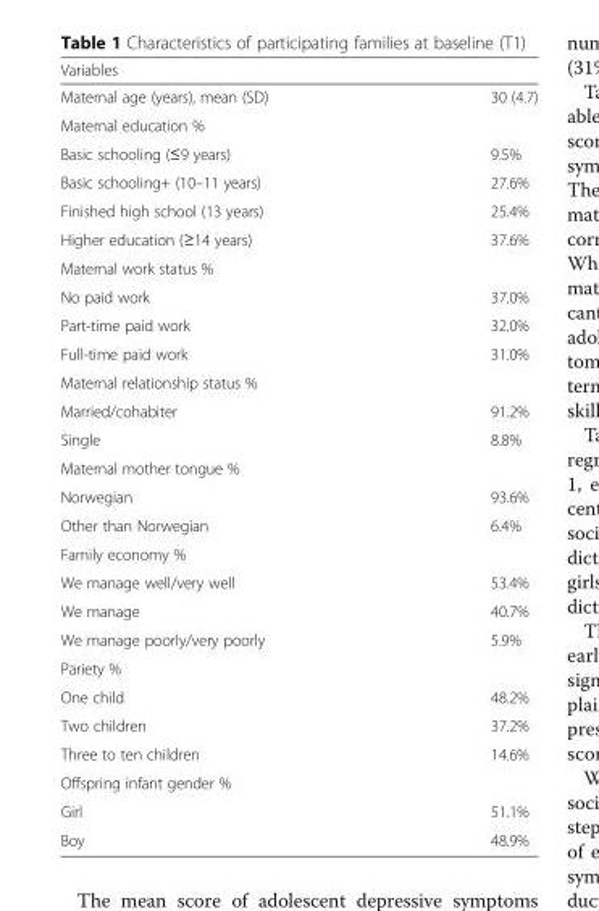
<table><thead><tr><td>Variables</td><td></td></tr></thead><tbody><tr><td>Maternal age (years), mean (SD)</td><td>30 (4.7)</td></tr><tr><td colspan="2">Maternal education %</td></tr><tr><td>Basic schooling (≤9 years)</td><td>9.5%</td></tr><tr><td>Basic schooling+ (10–11 years)</td><td>27.6%</td></tr><tr><td>Finished high school (13 years)</td><td>25.4%</td></tr><tr><td>Higher education (≥14 years)</td><td>37.6%</td></tr><tr><td colspan="2">Maternal work status %</td></tr><tr><td>No paid work</td><td>37.0%</td></tr><tr><td>Part-time paid work</td><td>32.0%</td></tr><tr><td>Full-time paid work</td><td>31.0%</td></tr><tr><td colspan="2">Maternal relationship status %</td></tr><tr><td>Married/cohabiter</td><td>91.2%</td></tr><tr><td>Single</td><td>8.8%</td></tr><tr><td colspan="2">Maternal mother tongue %</td></tr><tr><td>Norwegian</td><td>93.6%</td></tr><tr><td>Other than Norwegian</td><td>6.4%</td></tr><tr><td colspan="2">Family economy %</td></tr><tr><td>We manage well/very well</td><td>53.4%</td></tr><tr><td>We manage</td><td>40.7%</td></tr><tr><td>We manage poorly/very poorly</td><td>5.9%</td></tr><tr><td colspan="2">Pariety %</td></tr><tr><td>One child</td><td>48.2%</td></tr><tr><td>Two children</td><td>37.2%</td></tr><tr><td>Three to ten children</td><td>14.6%</td></tr><tr><td colspan="2">Offspring infant gender %</td></tr><tr><td>Girl</td><td>51.1%</td></tr><tr><td>Boy</td><td>48.9%</td></tr></tbody></table>